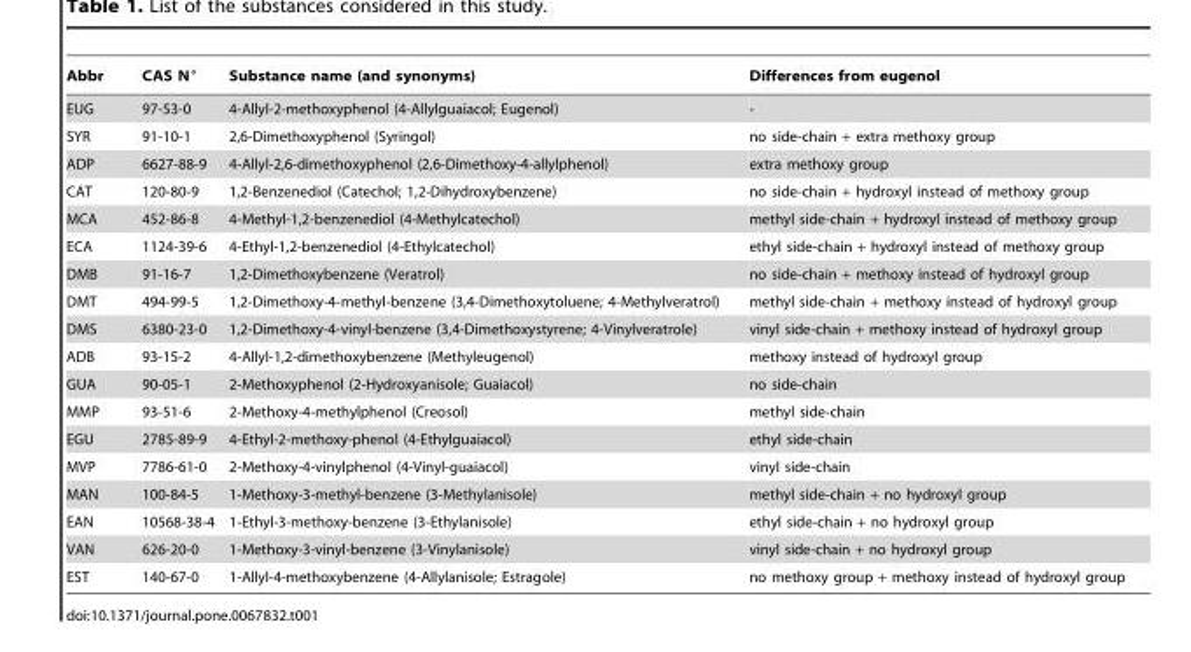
<table><thead><tr><td>Abbr</td><td>CAS N°</td><td>Substance name (and synonyms)</td><td>Differences from eugenol</td></tr></thead><tbody><tr><td>EUG</td><td>97-53-0</td><td>4-Allyl-2-methoxyphenol (4-Allylguaiacol; Eugenol)</td><td>-</td></tr><tr><td>SYR</td><td>91-10-1</td><td>2,6-Dimethoxyphenol (Syringol)</td><td>no side-chain + extra methoxy group</td></tr><tr><td>ADP</td><td>6627-88-9</td><td>4-Allyl-2,6-dimethoxyphenol (2,6-Dimethoxy-4-allylphenol)</td><td>extra methoxy group</td></tr><tr><td>CAT</td><td>120-80-9</td><td>1,2-Benzenediol (Catechol; 1,2-Dihydroxybenzene)</td><td>no side-chain + hydroxyl instead of methoxy group</td></tr><tr><td>MCA</td><td>452-86-8</td><td>4-Methyl-1,2-benzenediol (4-Methylcatechol)</td><td>methyl side-chain + hydroxyl instead of methoxy group</td></tr><tr><td>ECA</td><td>1124-39-6</td><td>4-Ethyl-1,2-benzenediol (4-Ethylcatechol)</td><td>ethyl side-chain + hydroxyl instead of methoxy group</td></tr><tr><td>DMB</td><td>91-16-7</td><td>1,2-Dimethoxybenzene (Veratrol)</td><td>no side-chain + methoxy instead of hydroxyl group</td></tr><tr><td>DMT</td><td>494-99-5</td><td>1,2-Dimethoxy-4-methyl-benzene (3,4-Dimethoxytoluene; 4-Methylveratrol)</td><td>methyl side-chain + methoxy instead of hydroxyl group</td></tr><tr><td>DMS</td><td>6380-23-0</td><td>1,2-Dimethoxy-4-vinyl-benzene (3,4-Dimethoxystyrene; 4-Vinylveratrole)</td><td>vinyl side-chain + methoxy instead of hydroxyl group</td></tr><tr><td>ADB</td><td>93-15-2</td><td>4-Allyl-1,2-dimethoxybenzene (Methyleugenol)</td><td>methoxy instead of hydroxyl group</td></tr><tr><td>GUA</td><td>90-05-1</td><td>2-Methoxyphenol (2-Hydroxyanisole; Guaiacol)</td><td>no side-chain</td></tr><tr><td>MMP</td><td>93-51-6</td><td>2-Methoxy-4-methylphenol (Creosol)</td><td>methyl side-chain</td></tr><tr><td>EGU</td><td>2785-89-9</td><td>4-Ethyl-2-methoxy-phenol (4-Ethylguaiacol)</td><td>ethyl side-chain</td></tr><tr><td>MVP</td><td>7786-61-0</td><td>2-Methoxy-4-vinylphenol (4-Vinyl-guaiacol)</td><td>vinyl side-chain</td></tr><tr><td>MAN</td><td>100-84-5</td><td>1-Methoxy-3-methyl-benzene (3-Methylanisole)</td><td>methyl side-chain + no hydroxyl group</td></tr><tr><td>EAN</td><td>10568-38-4</td><td>1-Ethyl-3-methoxy-benzene (3-Ethylanisole)</td><td>ethyl side-chain + no hydroxyl group</td></tr><tr><td>VAN</td><td>626-20-0</td><td>1-Methoxy-3-vinyl-benzene (3-Vinylanisole)</td><td>vinyl side-chain + no hydroxyl group</td></tr><tr><td>EST</td><td>140-67-0</td><td>1-Allyl-4-methoxybenzene (4-Allylanisole; Estragole)</td><td>no methoxy group + methoxy instead of hydroxyl group</td></tr></tbody></table>